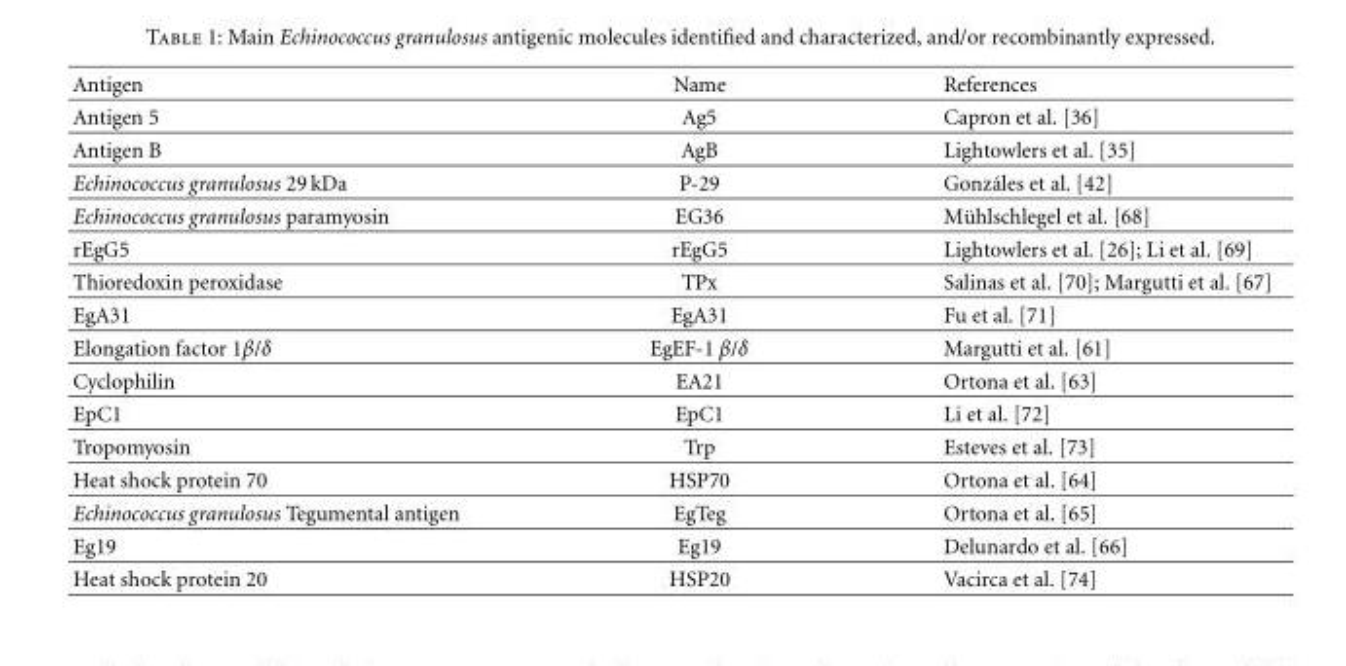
<table><thead><tr><td>Antigen</td><td>Name</td><td>References</td></tr></thead><tbody><tr><td>Antigen 5</td><td>Ag5</td><td>Capron et al. [36]</td></tr><tr><td>Antigen B</td><td>AgB</td><td>Lightowlers et al. [35]</td></tr><tr><td>Echinococcus granulosus 29 kDa</td><td>P-29</td><td>Gonz´ales et al. [42]</td></tr><tr><td>Echinococcus granulosus paramyosin</td><td>EG36</td><td>M¨uhlschlegel et al. [68]</td></tr><tr><td>rEgG5</td><td>rEgG5</td><td>Lightowlers et al. [26]; Li et al. [69]</td></tr><tr><td>Thioredoxin peroxidase</td><td>TPx</td><td>Salinas et al. [70]; Margutti et al. [67]</td></tr><tr><td>EgA31</td><td>EgA31</td><td>Fu et al. [71]</td></tr><tr><td>Elongation factor 1β/δ</td><td>EgEF-1 β/δ</td><td>Margutti et al. [61]</td></tr><tr><td>Cyclophilin</td><td>EA21</td><td>Ortona et al. [63]</td></tr><tr><td>EpC1</td><td>EpC1</td><td>Li et al. [72]</td></tr><tr><td>Tropomyosin</td><td>Trp</td><td>Esteves et al. [73]</td></tr><tr><td>Heat shock protein 70</td><td>HSP70</td><td>Ortona et al. [64]</td></tr><tr><td>Echinococcus granulosus Tegumental antigen</td><td>EgTeg</td><td>Ortona et al. [65]</td></tr><tr><td>Eg19</td><td>Eg19</td><td>Delunardo et al. [66]</td></tr><tr><td>Heat shock protein 20</td><td>HSP20</td><td>Vacirca et al. [74]</td></tr></tbody></table>